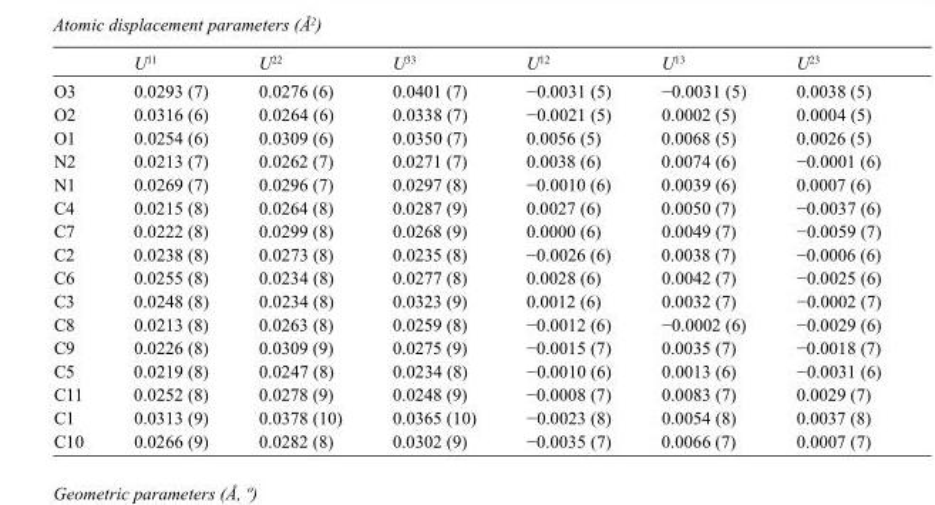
<table><thead><tr><td></td><td>U<sup>11</sup></td><td>U<sup>22</sup></td><td>U<sup>33</sup></td><td>U<sup>12</sup></td><td>U<sup>13</sup></td><td>U<sup>23</sup></td></tr></thead><tbody><tr><td>O3</td><td>0.0293 (7)</td><td>0.0276 (6)</td><td>0.0401 (7)</td><td>−0.0031 (5)</td><td>−0.0031 (5)</td><td>0.0038 (5)</td></tr><tr><td>O2</td><td>0.0316 (6)</td><td>0.0264 (6)</td><td>0.0338 (7)</td><td>−0.0021 (5)</td><td>0.0002 (5)</td><td>0.0004 (5)</td></tr><tr><td>O1</td><td>0.0254 (6)</td><td>0.0309 (6)</td><td>0.0350 (7)</td><td>0.0056 (5)</td><td>0.0068 (5)</td><td>0.0026 (5)</td></tr><tr><td>N2</td><td>0.0213 (7)</td><td>0.0262 (7)</td><td>0.0271 (7)</td><td>0.0038 (6)</td><td>0.0074 (6)</td><td>−0.0001 (6)</td></tr><tr><td>N1</td><td>0.0269 (7)</td><td>0.0296 (7)</td><td>0.0297 (8)</td><td>−0.0010 (6)</td><td>0.0039 (6)</td><td>0.0007 (6)</td></tr><tr><td>C4</td><td>0.0215 (8)</td><td>0.0264 (8)</td><td>0.0287 (9)</td><td>0.0027 (6)</td><td>0.0050 (7)</td><td>−0.0037 (6)</td></tr><tr><td>C7</td><td>0.0222 (8)</td><td>0.0299 (8)</td><td>0.0268 (9)</td><td>0.0000 (6)</td><td>0.0049 (7)</td><td>−0.0059 (7)</td></tr><tr><td>C2</td><td>0.0238 (8)</td><td>0.0273 (8)</td><td>0.0235 (8)</td><td>−0.0026 (6)</td><td>0.0038 (7)</td><td>−0.0006 (6)</td></tr><tr><td>C6</td><td>0.0255 (8)</td><td>0.0234 (8)</td><td>0.0277 (8)</td><td>0.0028 (6)</td><td>0.0042 (7)</td><td>−0.0025 (6)</td></tr><tr><td>C3</td><td>0.0248 (8)</td><td>0.0234 (8)</td><td>0.0323 (9)</td><td>0.0012 (6)</td><td>0.0032 (7)</td><td>−0.0002 (7)</td></tr><tr><td>C8</td><td>0.0213 (8)</td><td>0.0263 (8)</td><td>0.0259 (8)</td><td>−0.0012 (6)</td><td>−0.0002 (6)</td><td>−0.0029 (6)</td></tr><tr><td>C9</td><td>0.0226 (8)</td><td>0.0309 (9)</td><td>0.0275 (9)</td><td>−0.0015 (7)</td><td>0.0035 (7)</td><td>−0.0018 (7)</td></tr><tr><td>C5</td><td>0.0219 (8)</td><td>0.0247 (8)</td><td>0.0234 (8)</td><td>−0.0010 (6)</td><td>0.0013 (6)</td><td>−0.0031 (6)</td></tr><tr><td>C11</td><td>0.0252 (8)</td><td>0.0278 (9)</td><td>0.0248 (9)</td><td>−0.0008 (7)</td><td>0.0083 (7)</td><td>0.0029 (7)</td></tr><tr><td>C1</td><td>0.0313 (9)</td><td>0.0378 (10)</td><td>0.0365 (10)</td><td>−0.0023 (8)</td><td>0.0054 (8)</td><td>0.0037 (8)</td></tr><tr><td>C10</td><td>0.0266 (9)</td><td>0.0282 (8)</td><td>0.0302 (9)</td><td>−0.0035 (7)</td><td>0.0066 (7)</td><td>0.0007 (7)</td></tr></tbody></table>